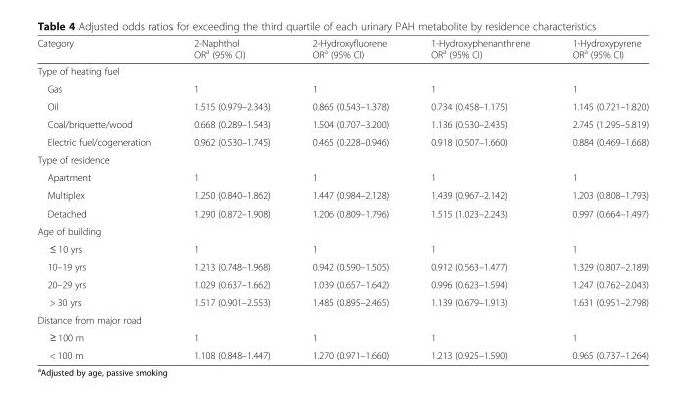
<table><thead><tr><td>Category</td><td>2-Naphthol OR<sup>a</sup> (95% CI)</td><td>2-Hydroxyfluorene OR<sup>a</sup> (95% CI)</td><td>1-Hydroxyphenanthrene OR<sup>a</sup> (95% CI)</td><td>1-Hydroxypyrene OR<sup>a</sup> (95% CI)</td></tr></thead><tbody><tr><td colspan="5">Type of heating fuel</td></tr><tr><td>Gas</td><td>1</td><td>1</td><td>1</td><td>1</td></tr><tr><td>Oil</td><td>1.515 (0.979–2.343)</td><td>0.865 (0.543–1.378)</td><td>0.734 (0.458–1.175)</td><td>1.145 (0.721–1.820)</td></tr><tr><td>Coal/briquette/wood</td><td>0.668 (0.289–1.543)</td><td>1.504 (0.707–3.200)</td><td>1.136 (0.530–2.435)</td><td>2.745 (1.295–5.819)</td></tr><tr><td>Electric fuel/cogeneration</td><td>0.962 (0.530–1.745)</td><td>0.465 (0.228–0.946)</td><td>0.918 (0.507–1.660)</td><td>0.884 (0.469–1.668)</td></tr><tr><td colspan="5">Type of residence</td></tr><tr><td>Apartment</td><td>1</td><td>1</td><td>1</td><td>1</td></tr><tr><td>Multiplex</td><td>1.250 (0.840–1.862)</td><td>1.447 (0.984–2.128)</td><td>1.439 (0.967–2.142)</td><td>1.203 (0.808–1.793)</td></tr><tr><td>Detached</td><td>1.290 (0.872–1.908)</td><td>1.206 (0.809–1.796)</td><td>1.515 (1.023–2.243)</td><td>0.997 (0.664–1.497)</td></tr><tr><td colspan="5">Age of building</td></tr><tr><td>≤ 10 yrs</td><td>1</td><td>1</td><td>1</td><td>1</td></tr><tr><td>10–19 yrs</td><td>1.213 (0.748–1.968)</td><td>0.942 (0.590–1.505)</td><td>0.912 (0.563–1.477)</td><td>1.329 (0.807–2.189)</td></tr><tr><td>20–29 yrs</td><td>1.029 (0.637–1.662)</td><td>1.039 (0.657–1.642)</td><td>0.996 (0.623–1.594)</td><td>1.247 (0.762–2.043)</td></tr><tr><td>&gt; 30 yrs</td><td>1.517 (0.901–2.553)</td><td>1.485 (0.895–2.465)</td><td>1.139 (0.679–1.913)</td><td>1.631 (0.951–2.798)</td></tr><tr><td colspan="5">Distance from major road</td></tr><tr><td>≥ 100 m</td><td>1</td><td>1</td><td>1</td><td>1</td></tr><tr><td>&lt; 100 m</td><td>1.108 (0.848–1.447)</td><td>1.270 (0.971–1.660)</td><td>1.213 (0.925–1.590)</td><td>0.965 (0.737–1.264)</td></tr></tbody></table>